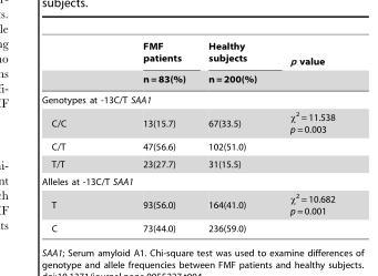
<table><thead><tr><td rowspan="2"></td><td rowspan="2">FMF patients n = 83(%)</td><td rowspan="2">Healthy subjects n = 200(%)</td><td rowspan="2">p value</td></tr><tr></tr></thead><tbody><tr><td colspan="4">Genotypes at -13C/T SAA1</td></tr><tr><td>C/C</td><td>13(15.7)</td><td>67(33.5)</td><td>χ<sup>2</sup> = 11.538 p = 0.003</td></tr><tr><td>C/T</td><td>47(56.6)</td><td>102(51.0)</td><td></td></tr><tr><td>T/T</td><td>23(27.7)</td><td>31(15.5)</td><td></td></tr><tr><td colspan="4">Alleles at -13C/T SAA1</td></tr><tr><td>T</td><td>93(56.0)</td><td>164(41.0)</td><td>χ<sup>2</sup> = 10.682 p = 0.001</td></tr><tr><td>C</td><td>73(44.0)</td><td>236(59.0)</td><td></td></tr></tbody></table>